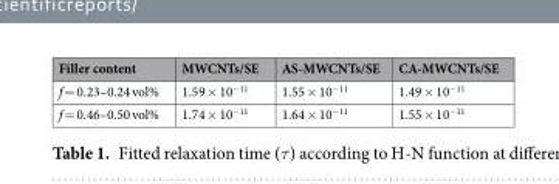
<table><thead><tr><td>Filler content</td><td>MWCNTs/SE</td><td>AS-MWCNTs/SE</td><td>CA-MWCNTs/SE</td></tr></thead><tbody><tr><td>f = 0.23–0.24 vol%</td><td>1.59 × 10<sup>−11</sup></td><td>1.55 × 10<sup>−11</sup></td><td>1.49 × 10<sup>−11</sup></td></tr><tr><td>f = 0.46–0.50 vol%</td><td>1.74 × 10<sup>−11</sup></td><td>1.64 × 10<sup>−11</sup></td><td>1.55 × 10<sup>−11</sup></td></tr></tbody></table>